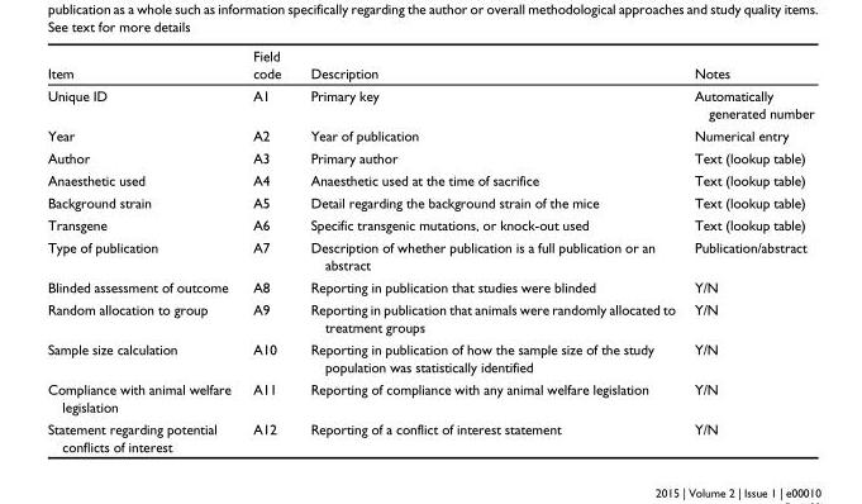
<table><thead><tr><td>Item</td><td>Field code</td><td>Description</td><td>Notes</td></tr></thead><tbody><tr><td>Unique ID</td><td>A1</td><td>Primary key</td><td>Automatically generated number</td></tr><tr><td>Year</td><td>A2</td><td>Year of publication</td><td>Numerical entry</td></tr><tr><td>Author</td><td>A3</td><td>Primary author</td><td>Text (lookup table)</td></tr><tr><td>Anaesthetic used</td><td>A4</td><td>Anaesthetic used at the time of sacrifice</td><td>Text (lookup table)</td></tr><tr><td>Background strain</td><td>A5</td><td>Detail regarding the background strain of the mice</td><td>Text (lookup table)</td></tr><tr><td>Transgene</td><td>A6</td><td>Specific transgenic mutations, or knock-out used</td><td>Text (lookup table)</td></tr><tr><td>Type of publication</td><td>A7</td><td>Description of whether publication is a full publication or an abstract</td><td>Publication/abstract</td></tr><tr><td>Blinded assessment of outcome</td><td>A8</td><td>Reporting in publication that studies were blinded</td><td>Y/N</td></tr><tr><td>Random allocation to group</td><td>A9</td><td>Reporting in publication that animals were randomly allocated to treatment groups</td><td>Y/N</td></tr><tr><td>Sample size calculation</td><td>A10</td><td>Reporting in publication of how the sample size of the study population was statistically identified</td><td>Y/N</td></tr><tr><td>Compliance with animal welfare legislation</td><td>A11</td><td>Reporting of compliance with any animal welfare legislation</td><td>Y/N</td></tr><tr><td>Statement regarding potential conflicts of interest</td><td>A12</td><td>Reporting of a conflict of interest statement</td><td>Y/N</td></tr></tbody></table>